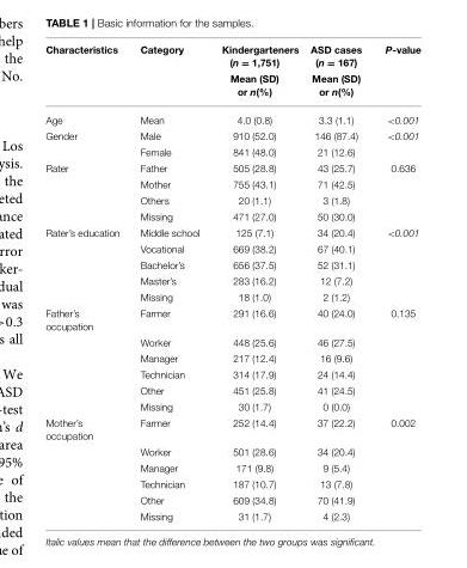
<table><thead><tr><td rowspan="2">Characteristics</td><td rowspan="2">Category</td><td rowspan="2">Kindergarteners (n = 1,751) Mean (SD) or n(%)</td><td rowspan="2">ASD cases (n = 167) Mean (SD) or n(%)</td><td rowspan="2">P-value</td></tr><tr></tr></thead><tbody><tr><td>Age</td><td>Mean</td><td>4.0 (0.8)</td><td>3.3 (1.1)</td><td>&lt;0.001</td></tr><tr><td rowspan="2">Gender</td><td>Male</td><td>910 (52.0)</td><td>146 (87.4)</td><td>&lt;0.001</td></tr><tr><td>Female</td><td>841 (48.0)</td><td>21 (12.6)</td><td></td></tr><tr><td rowspan="4">Rater</td><td>Father</td><td>505 (28.8)</td><td>43 (25.7)</td><td>0.636</td></tr><tr><td>Mother</td><td>755 (43.1)</td><td>71 (42.5)</td><td></td></tr><tr><td>Others</td><td>20 (1.1)</td><td>3 (1.8)</td><td></td></tr><tr><td>Missing</td><td>471 (27.0)</td><td>50 (30.0)</td><td></td></tr><tr><td rowspan="5">Rater’s education</td><td>Middle school</td><td>125 (7.1)</td><td>34 (20.4)</td><td>&lt;0.001</td></tr><tr><td>Vocational</td><td>669 (38.2)</td><td>67 (40.1)</td><td></td></tr><tr><td>Bachelor’s</td><td>656 (37.5)</td><td>52 (31.1)</td><td></td></tr><tr><td>Master’s</td><td>283 (16.2)</td><td>12 (7.2)</td><td></td></tr><tr><td>Missing</td><td>18 (1.0)</td><td>2 (1.2)</td><td></td></tr><tr><td rowspan="6">Father’s occupation</td><td>Farmer</td><td>291 (16.6)</td><td>40 (24.0)</td><td>0.135</td></tr><tr><td>Worker</td><td>448 (25.6)</td><td>46 (27.5)</td><td></td></tr><tr><td>Manager</td><td>217 (12.4)</td><td>16 (9.6)</td><td></td></tr><tr><td>Technician</td><td>314 (17.9)</td><td>24 (14.4)</td><td></td></tr><tr><td>Other</td><td>451 (25.8)</td><td>41 (24.5)</td><td></td></tr><tr><td>Missing</td><td>30 (1.7)</td><td>0 (0.0)</td><td></td></tr><tr><td rowspan="6">Mother’s occupation</td><td>Farmer</td><td>252 (14.4)</td><td>37 (22.2)</td><td>0.002</td></tr><tr><td>Worker</td><td>501 (28.6)</td><td>34 (20.4)</td><td></td></tr><tr><td>Manager</td><td>171 (9.8)</td><td>9 (5.4)</td><td></td></tr><tr><td>Technician</td><td>187 (10.7)</td><td>13 (7.8)</td><td></td></tr><tr><td>Other</td><td>609 (34.8)</td><td>70 (41.9)</td><td></td></tr><tr><td>Missing</td><td>31 (1.7)</td><td>4 (2.3)</td><td></td></tr></tbody></table>